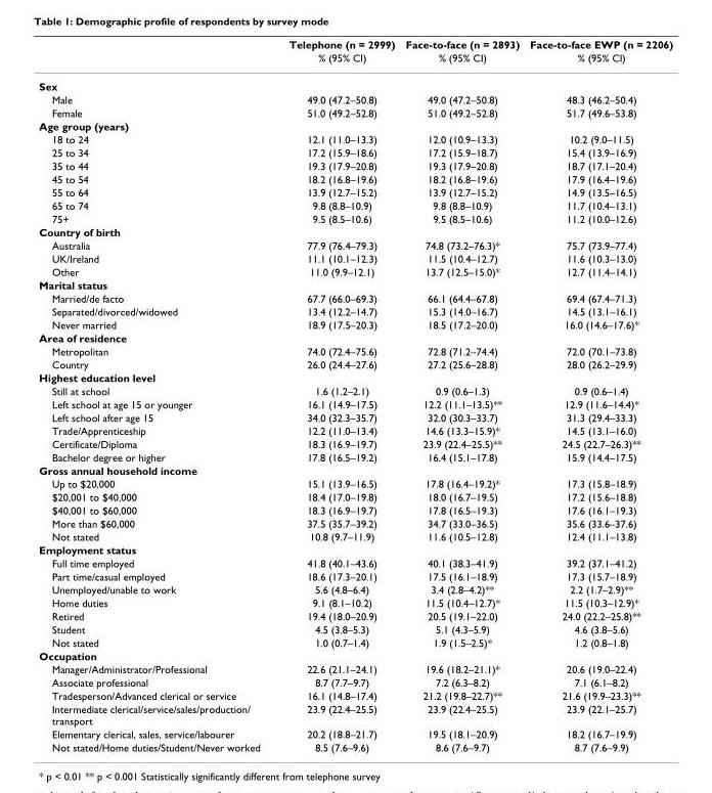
<table><thead><tr><td rowspan="2"></td><td rowspan="2">Telephone (n = 2999) % (95% CI)</td><td rowspan="2">Face-to-face (n = 2893) % (95% CI)</td><td rowspan="2">Face-to-face EWP (n = 2206) % (95% CI)</td></tr><tr></tr></thead><tbody><tr><td colspan="4">Sex</td></tr><tr><td>Male</td><td>49.0 (47.2–50.8)</td><td>49.0 (47.2–50.8)</td><td>48.3 (46.2–50.4)</td></tr><tr><td>Female</td><td>51.0 (49.2–52.8)</td><td>51.0 (49.2–52.8)</td><td>51.7 (49.6–53.8)</td></tr><tr><td colspan="4">Age group (years)</td></tr><tr><td>18 to 24</td><td>12.1 (11.0–13.3)</td><td>12.0 (10.9–13.3)</td><td>10.2 (9.0–11.5)</td></tr><tr><td>25 to 34</td><td>17.2 (15.9–18.6)</td><td>17.2 (15.9–18.7)</td><td>15.4 (13.9–16.9)</td></tr><tr><td>35 to 44</td><td>19.3 (17.9–20.8)</td><td>19.3 (17.9–20.8)</td><td>18.7 (17.1–20.4)</td></tr><tr><td>45 to 54</td><td>18.2 (16.8–19.6)</td><td>18.2 (16.8–19.6)</td><td>17.9 (16.4–19.6)</td></tr><tr><td>55 to 64</td><td>13.9 (12.7–15.2)</td><td>13.9 (12.7–15.2)</td><td>14.9 (13.5–16.5)</td></tr><tr><td>65 to 74</td><td>9.8 (8.8–10.9)</td><td>9.8 (8.8–10.9)</td><td>11.7 (10.4–13.1)</td></tr><tr><td>75+</td><td>9.5 (8.5–10.6)</td><td>9.5 (8.5–10.6)</td><td>11.2 (10.0–12.6)</td></tr><tr><td colspan="4">Country of birth</td></tr><tr><td>Australia</td><td>77.9 (76.4–79.3)</td><td>74.8 (73.2–76.3)*</td><td>75.7 (73.9–77.4)</td></tr><tr><td>UK/Ireland</td><td>11.1 (10.1–12.3)</td><td>11.5 (10.4–12.7)</td><td>11.6 (10.3–13.0)</td></tr><tr><td>Other</td><td>11.0 (9.9–12.1)</td><td>13.7 (12.5–15.0)*</td><td>12.7 (11.4–14.1)</td></tr><tr><td colspan="4">Marital status</td></tr><tr><td>Married/de facto</td><td>67.7 (66.0–69.3)</td><td>66.1 (64.4–67.8)</td><td>69.4 (67.4–71.3)</td></tr><tr><td>Separated/divorced/widowed</td><td>13.4 (12.2–14.7)</td><td>15.3 (14.0–16.7)</td><td>14.5 (13.1–16.1)</td></tr><tr><td>Never married</td><td>18.9 (17.5–20.3)</td><td>18.5 (17.2–20.0)</td><td>16.0 (14.6–17.6)*</td></tr><tr><td colspan="4">Area of residence</td></tr><tr><td>Metropolitan</td><td>74.0 (72.4–75.6)</td><td>72.8 (71.2–74.4)</td><td>72.0 (70.1–73.8)</td></tr><tr><td>Country</td><td>26.0 (24.4–27.6)</td><td>27.2 (25.6–28.8)</td><td>28.0 (26.2–29.9)</td></tr><tr><td colspan="4">Highest education level</td></tr><tr><td>Still at school</td><td>1.6 (1.2–2.1)</td><td>0.9 (0.6–1.3)</td><td>0.9 (0.6–1.4)</td></tr><tr><td>Left school at age 15 or younger</td><td>16.1 (14.9–17.5)</td><td>12.2 (11.1–13.5)**</td><td>12.9 (11.6–14.4)*</td></tr><tr><td>Left school after age 15</td><td>34.0 (32.3–35.7)</td><td>32.0 (30.3–33.7)</td><td>31.3 (29.4–33.3)</td></tr><tr><td>Trade/Apprenticeship</td><td>12.2 (11.0–13.4)</td><td>14.6 (13.3–15.9)*</td><td>14.5 (13.1–16.0)</td></tr><tr><td>Certificate/Diploma</td><td>18.3 (16.9–19.7)</td><td>23.9 (22.4–25.5)**</td><td>24.5 (22.7–26.3)**</td></tr><tr><td>Bachelor degree or higher</td><td>17.8 (16.5–19.2)</td><td>16.4 (15.1–17.8)</td><td>15.9 (14.4–17.5)</td></tr><tr><td colspan="4">Gross annual household income</td></tr><tr><td>Up to $20,000</td><td>15.1 (13.9–16.5)</td><td>17.8 (16.4–19.2)*</td><td>17.3 (15.8–18.9)</td></tr><tr><td>$20,001 to $40,000</td><td>18.4 (17.0–19.8)</td><td>18.0 (16.7–19.5)</td><td>17.2 (15.6–18.8)</td></tr><tr><td>$40,001 to $60,000</td><td>18.3 (16.9–19.7)</td><td>17.8 (16.5–19.3)</td><td>17.6 (16.1–19.3)</td></tr><tr><td>More than $60,000</td><td>37.5 (35.7–39.2)</td><td>34.7 (33.0–36.5)</td><td>35.6 (33.6–37.6)</td></tr><tr><td>Not stated</td><td>10.8 (9.7–11.9)</td><td>11.6 (10.5–12.8)</td><td>12.4 (11.1–13.8)</td></tr><tr><td colspan="4">Employment status</td></tr><tr><td>Full time employed</td><td>41.8 (40.1–43.6)</td><td>40.1 (38.3–41.9)</td><td>39.2 (37.1–41.2)</td></tr><tr><td>Part time/casual employed</td><td>18.6 (17.3–20.1)</td><td>17.5 (16.1–18.9)</td><td>17.3 (15.7–18.9)</td></tr><tr><td>Unemployed/unable to work</td><td>5.6 (4.8–6.4)</td><td>3.4 (2.8–4.2)**</td><td>2.2 (1.7–2.9)**</td></tr><tr><td>Home duties</td><td>9.1 (8.1–10.2)</td><td>11.5 (10.4–12.7)*</td><td>11.5 (10.3–12.9)*</td></tr><tr><td>Retired</td><td>19.4 (18.0–20.9)</td><td>20.5 (19.1–22.0)</td><td>24.0 (22.2–25.8)**</td></tr><tr><td>Student</td><td>4.5 (3.8–5.3)</td><td>5.1 (4.3–5.9)</td><td>4.6 (3.8–5.6)</td></tr><tr><td>Not stated</td><td>1.0 (0.7–1.4)</td><td>1.9 (1.5–2.5)*</td><td>1.2 (0.8–1.8)</td></tr><tr><td colspan="4">Occupation</td></tr><tr><td>Manager/Administrator/Professional</td><td>22.6 (21.1–24.1)</td><td>19.6 (18.2–21.1)*</td><td>20.6 (19.0–22.4)</td></tr><tr><td>Associate professional</td><td>8.7 (7.7–9.7)</td><td>7.2 (6.3–8.2)</td><td>7.1 (6.1–8.2)</td></tr><tr><td>Tradesperson/Advanced clerical or service</td><td>16.1 (14.8–17.4)</td><td>21.2 (19.8–22.7)**</td><td>21.6 (19.9–23.3)**</td></tr><tr><td>Intermediate clerical/service/sales/production/ transport</td><td>23.9 (22.4–25.5)</td><td>23.9 (22.4–25.5)</td><td>23.9 (22.1–25.7)</td></tr><tr><td>Elementary clerical, sales, service/labourer</td><td>20.2 (18.8–21.7)</td><td>19.5 (18.1–20.9)</td><td>18.2 (16.7–19.9)</td></tr><tr><td>Not stated/Home duties/Student/Never worked</td><td>8.5 (7.6–9.6)</td><td>8.6 (7.6–9.7)</td><td>8.7 (7.6–9.9)</td></tr></tbody></table>